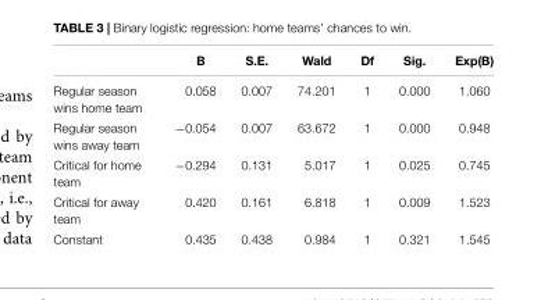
<table><thead><tr><td></td><td>B</td><td>S.E.</td><td>Wald</td><td>Df</td><td>Sig.</td><td>Exp(B)</td></tr></thead><tbody><tr><td>Regular season wins home team</td><td>0.058</td><td>0.007</td><td>74.201</td><td>1</td><td>0.000</td><td>1.060</td></tr><tr><td>Regular season wins away team</td><td>−0.054</td><td>0.007</td><td>63.672</td><td>1</td><td>0.000</td><td>0.948</td></tr><tr><td>Critical for home team</td><td>−0.294</td><td>0.131</td><td>5.017</td><td>1</td><td>0.025</td><td>0.745</td></tr><tr><td>Critical for away team</td><td>0.420</td><td>0.161</td><td>6.818</td><td>1</td><td>0.009</td><td>1.523</td></tr><tr><td>Constant</td><td>0.435</td><td>0.438</td><td>0.984</td><td>1</td><td>0.321</td><td>1.545</td></tr></tbody></table>